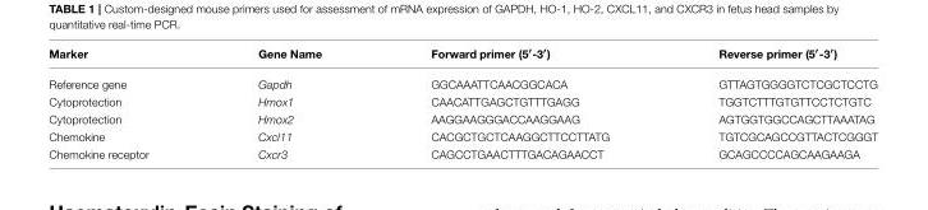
<table><thead><tr><td>Marker</td><td>Gene Name</td><td>Forward primer (5′-3′)</td><td>Reverse primer (5′-3′)</td></tr></thead><tbody><tr><td>Reference gene</td><td>Gapdh</td><td>GGCAAATTCAACGGCACA</td><td>GTTAGTGGGGTCTCGCTCCTG</td></tr><tr><td>Cytoprotection</td><td>Hmox1</td><td>CAACATTGAGCTGTTTGAGG</td><td>TGGTCTTTGTGTTCCTCTGTC</td></tr><tr><td>Cytoprotection</td><td>Hmox2</td><td>AAGGAAGGGACCAAGGAAG</td><td>AGTGGTGGCCAGCTTAAATAG</td></tr><tr><td>Chemokine</td><td>Cxcl11</td><td>CACGCTGCTCAAGGCTTCCTTATG</td><td>TGTCGCAGCCGTTACTCGGGT</td></tr><tr><td>Chemokine receptor</td><td>Cxcr3</td><td>CAGCCTGAACTTTGACAGAACCT</td><td>GCAGCCCCAGCAAGAAGA</td></tr></tbody></table>